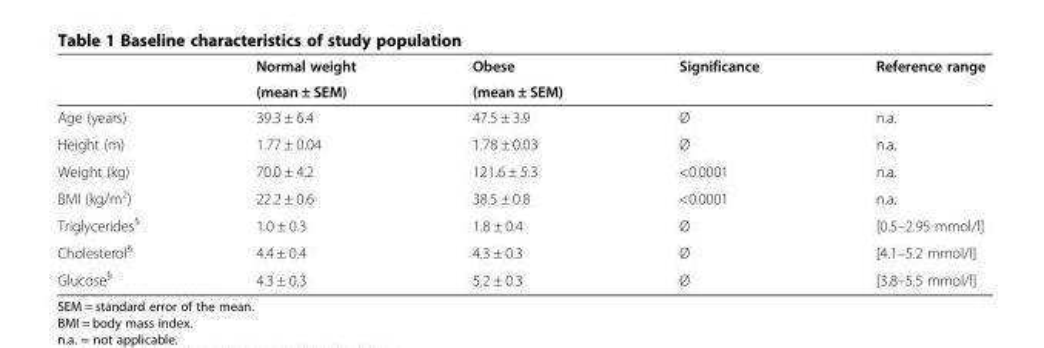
<table><thead><tr><td rowspan="2"></td><td rowspan="2">Normal weight (mean ± SEM)</td><td rowspan="2">Obese (mean ± SEM)</td><td rowspan="2">Significance</td><td rowspan="2">Reference range</td></tr><tr></tr></thead><tbody><tr><td>Age (years)</td><td>39.3 ± 6.4</td><td>47.5 ± 3.9</td><td>Ø</td><td>n.a.</td></tr><tr><td>Height (m)</td><td>1.77 ± 0.04</td><td>1.78 ± 0.03</td><td>Ø</td><td>n.a.</td></tr><tr><td>Weight (kg)</td><td>70.0 ± 4.2</td><td>121.6 ± 5.3</td><td>&lt;0.0001</td><td>n.a.</td></tr><tr><td>BMI (kg/m<sup>2</sup>)</td><td>22.2 ± 0.6</td><td>38.5 ± 0.8</td><td>&lt;0.0001</td><td>n.a.</td></tr><tr><td>Triglycerides<sup>§</sup></td><td>1.0 ± 0.3</td><td>1.8 ± 0.4</td><td>Ø</td><td>[0.5–2.95 mmol/l]</td></tr><tr><td>Cholesterol<sup>§</sup></td><td>4.4 ± 0.4</td><td>4.3 ± 0.3</td><td>Ø</td><td>[4.1–5.2 mmol/l]</td></tr><tr><td>Glucose<sup>§</sup></td><td>4.3 ± 0.3</td><td>5.2 ± 0.3</td><td>Ø</td><td>[3.8–5.5 mmol/l]</td></tr></tbody></table>